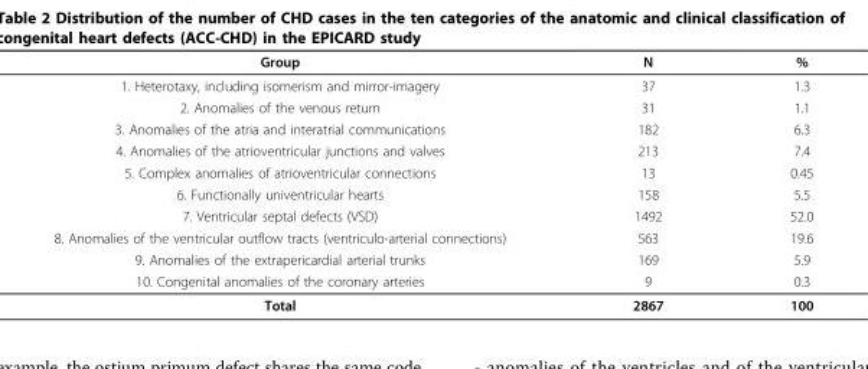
<table><thead><tr><td>Group</td><td>N</td><td>%</td></tr></thead><tbody><tr><td>1. Heterotaxy, including isomerism and mirror-imagery</td><td>37</td><td>1.3</td></tr><tr><td>2. Anomalies of the venous return</td><td>31</td><td>1.1</td></tr><tr><td>3. Anomalies of the atria and interatrial communications</td><td>182</td><td>6.3</td></tr><tr><td>4. Anomalies of the atrioventricular junctions and valves</td><td>213</td><td>7.4</td></tr><tr><td>5. Complex anomalies of atrioventricular connections</td><td>13</td><td>0.45</td></tr><tr><td>6. Functionally univentricular hearts</td><td>158</td><td>5.5</td></tr><tr><td>7. Ventricular septal defects (VSD)</td><td>1492</td><td>52.0</td></tr><tr><td>8. Anomalies of the ventricular outflow tracts (ventriculo-arterial connections)</td><td>563</td><td>19.6</td></tr><tr><td>9. Anomalies of the extrapericardial arterial trunks</td><td>169</td><td>5.9</td></tr><tr><td>10. Congenital anomalies of the coronary arteries</td><td>9</td><td>0.3</td></tr><tr><td>Total</td><td>2867</td><td>100</td></tr></tbody></table>